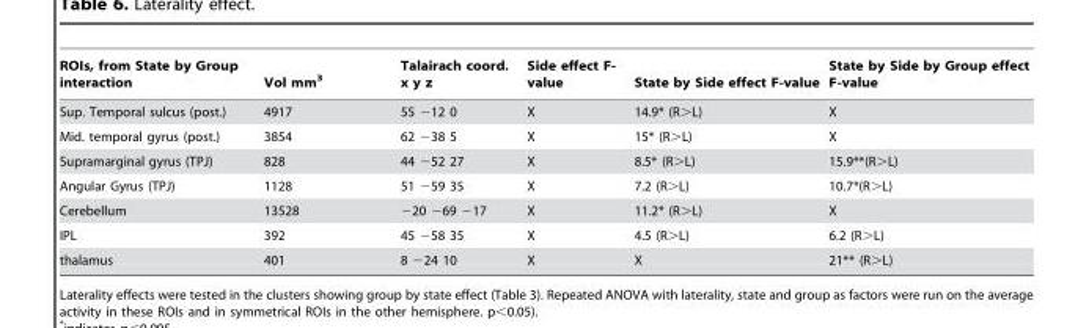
<table><thead><tr><td>ROIs, from State by Group interaction</td><td>Vol mm<sup>3</sup></td><td>Talairach coord. x y z</td><td>Side effect F- value</td><td>State by Side effect F-value</td><td>State by Side by Group effect F-value</td></tr></thead><tbody><tr><td>Sup. Temporal sulcus (post.)</td><td>4917</td><td>55 −12 0</td><td>X</td><td>14.9* (R&gt;L)</td><td>X</td></tr><tr><td>Mid. temporal gyrus (post.)</td><td>3854</td><td>62 −38 5</td><td>X</td><td>15* (R&gt;L)</td><td>X</td></tr><tr><td>Supramarginal gyrus (TPJ)</td><td>828</td><td>44 −52 27</td><td>X</td><td>8.5* (R&gt;L)</td><td>15.9**(R&gt;L)</td></tr><tr><td>Angular Gyrus (TPJ)</td><td>1128</td><td>51 −59 35</td><td>X</td><td>7.2 (R&gt;L)</td><td>10.7*(R&gt;L)</td></tr><tr><td>Cerebellum</td><td>13528</td><td>−20 −69 −17</td><td>X</td><td>11.2* (R&gt;L)</td><td>X</td></tr><tr><td>IPL</td><td>392</td><td>45 −58 35</td><td>X</td><td>4.5 (R&gt;L)</td><td>6.2 (R&gt;L)</td></tr><tr><td>thalamus</td><td>401</td><td>8 −24 10</td><td>X</td><td>X</td><td>21** (R&gt;L)</td></tr></tbody></table>